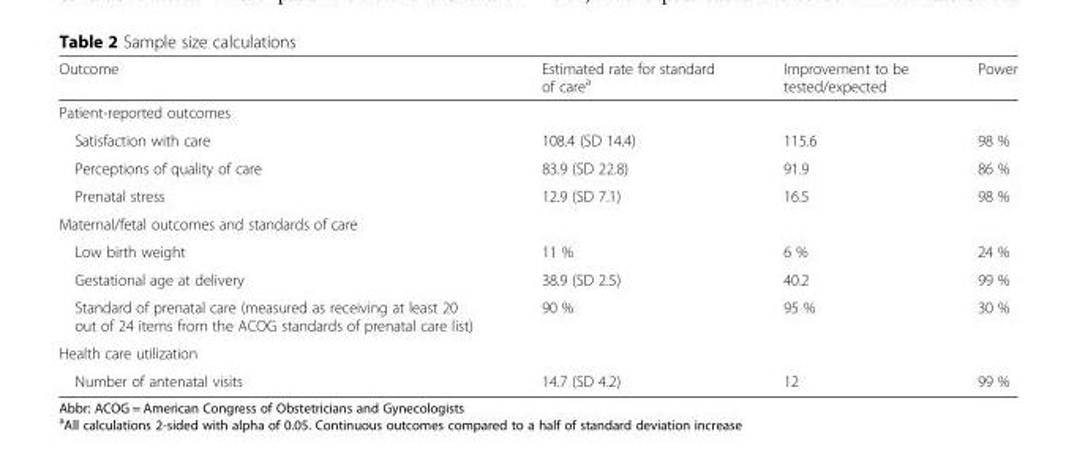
<table><thead><tr><td>Outcome</td><td>Estimated rate for standard of care<sup>a</sup></td><td>Improvement to be tested/expected</td><td>Power</td></tr></thead><tbody><tr><td colspan="4">Patient-reported outcomes</td></tr><tr><td>Satisfaction with care</td><td>108.4 (SD 14.4)</td><td>115.6</td><td>98 %</td></tr><tr><td>Perceptions of quality of care</td><td>83.9 (SD 22.8)</td><td>91.9</td><td>86 %</td></tr><tr><td>Prenatal stress</td><td>12.9 (SD 7.1)</td><td>16.5</td><td>98 %</td></tr><tr><td colspan="4">Maternal/fetal outcomes and standards of care</td></tr><tr><td>Low birth weight</td><td>11 %</td><td>6 %</td><td>24 %</td></tr><tr><td>Gestational age at delivery</td><td>38.9 (SD 2.5)</td><td>40.2</td><td>99 %</td></tr><tr><td>Standard of prenatal care (measured as receiving at least 20 out of 24 items from the ACOG standards of prenatal care list)</td><td>90 %</td><td>95 %</td><td>30 %</td></tr><tr><td colspan="4">Health care utilization</td></tr><tr><td>Number of antenatal visits</td><td>14.7 (SD 4.2)</td><td>12</td><td>99 %</td></tr></tbody></table>